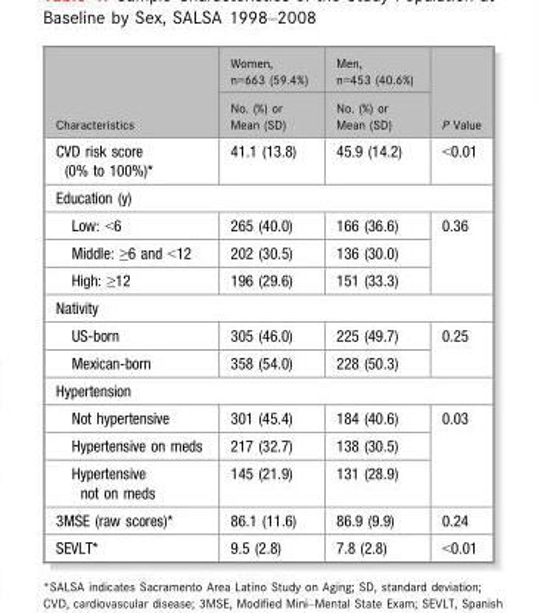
<table><thead><tr><td rowspan="2">Characteristics</td><td rowspan="2">Women, n=663 (59.4%) No. (%) or Mean (SD)</td><td rowspan="2">Men, n=453 (40.6%) No. (%) or Mean (SD)</td><td rowspan="2">P Value</td></tr><tr></tr></thead><tbody><tr><td>CVD risk score (0% to 100%)*</td><td>41.1 (13.8)</td><td>45.9 (14.2)</td><td>&lt;0.01</td></tr><tr><td colspan="4">Education (y)</td></tr><tr><td>Low: &lt;6</td><td>265 (40.0)</td><td>166 (36.6)</td><td rowspan="3">0.36</td></tr><tr><td>Middle: ≥6 and &lt;12</td><td>202 (30.5)</td><td>136 (30.0)</td></tr><tr><td>High: ≥12</td><td>196 (29.6)</td><td>151 (33.3)</td></tr><tr><td colspan="4">Nativity</td></tr><tr><td>US-born</td><td>305 (46.0)</td><td>225 (49.7)</td><td rowspan="2">0.25</td></tr><tr><td>Mexican-born</td><td>358 (54.0)</td><td>228 (50.3)</td></tr><tr><td colspan="4">Hypertension</td></tr><tr><td>Not hypertensive</td><td>301 (45.4)</td><td>184 (40.6)</td><td rowspan="3">0.03</td></tr><tr><td>Hypertensive on meds</td><td>217 (32.7)</td><td>138 (30.5)</td></tr><tr><td>Hypertensive not on meds</td><td>145 (21.9)</td><td>131 (28.9)</td></tr><tr><td>3MSE (raw scores)*</td><td>86.1 (11.6)</td><td>86.9 (9.9)</td><td>0.24</td></tr><tr><td>SEVLT*</td><td>9.5 (2.8)</td><td>7.8 (2.8)</td><td>&lt;0.01</td></tr></tbody></table>